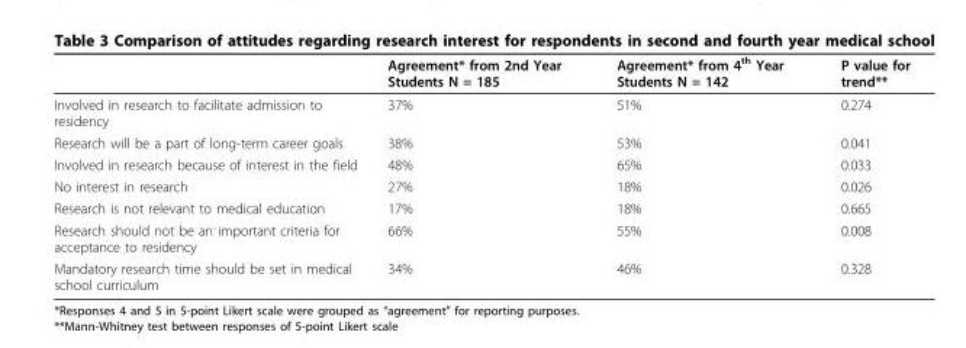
<table><thead><tr><td></td><td>Agreement* from 2nd Year Students N = 185</td><td>Agreement* from 4<sup>th</sup> Year Students N = 142</td><td>P value for trend**</td></tr></thead><tbody><tr><td>Involved in research to facilitate admission to residency</td><td>37%</td><td>51%</td><td>0.274</td></tr><tr><td>Research will be a part of long-term career goals</td><td>38%</td><td>53%</td><td>0.041</td></tr><tr><td>Involved in research because of interest in the field</td><td>48%</td><td>65%</td><td>0.033</td></tr><tr><td>No interest in research</td><td>27%</td><td>18%</td><td>0.026</td></tr><tr><td>Research is not relevant to medical education</td><td>17%</td><td>18%</td><td>0.665</td></tr><tr><td>Research should not be an important criteria for acceptance to residency</td><td>66%</td><td>55%</td><td>0.008</td></tr><tr><td>Mandatory research time should be set in medical school curriculum</td><td>34%</td><td>46%</td><td>0.328</td></tr></tbody></table>